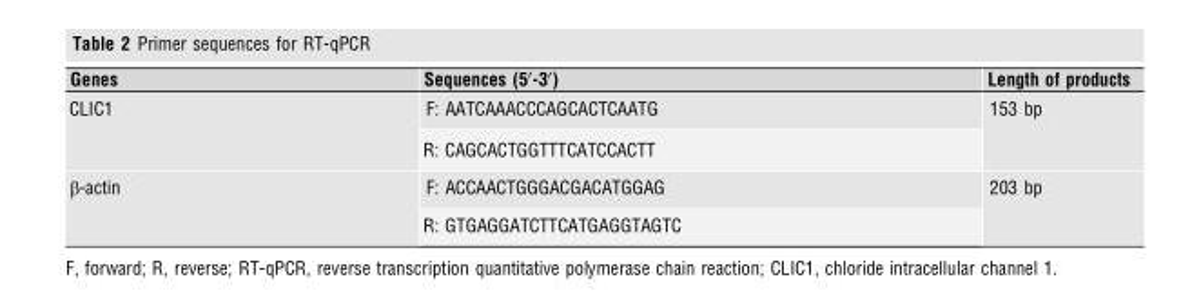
<table><thead><tr><td>Genes</td><td>Sequences (5′-3′)</td><td>Length of products</td></tr></thead><tbody><tr><td rowspan="2">CLIC1</td><td>F: AATCAAACCCAGCACTCAATG</td><td rowspan="2">153 bp</td></tr><tr><td>R: CAGCACTGGTTTCATCCACTT</td></tr><tr><td rowspan="2">β-actin</td><td>F: ACCAACTGGGACGACATGGAG</td><td rowspan="2">203 bp</td></tr><tr><td>R: GTGAGGATCTTCATGAGGTAGTC</td></tr></tbody></table>